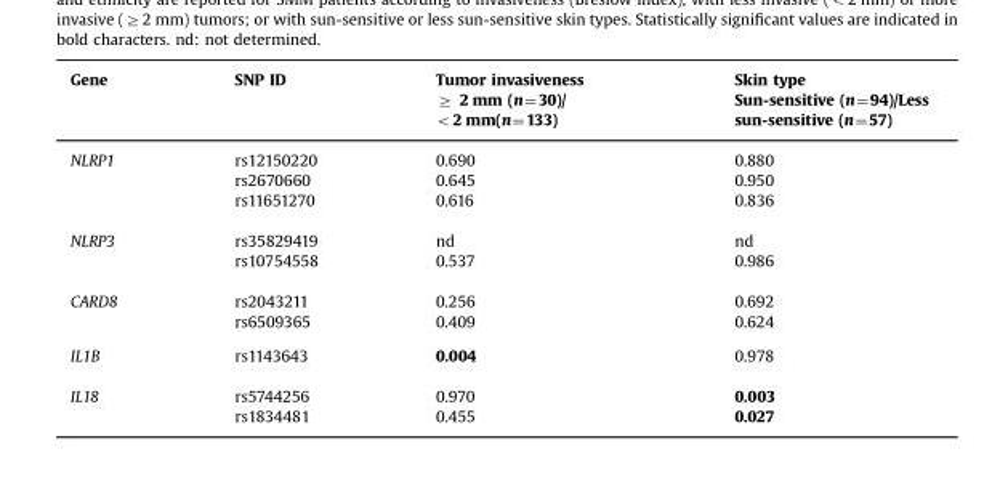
<table><thead><tr><td rowspan="2">Gene</td><td rowspan="2">SNP ID</td><td rowspan="2">Tumor invasiveness ≥ 2 mm (n=30)/ &lt;2 mm(n=133)</td><td rowspan="2">Skin type Sun-sensitive (n=94)/Less sun-sensitive (n=57)</td></tr><tr></tr></thead><tbody><tr><td rowspan="3">NLRP1</td><td>rs12150220</td><td>0.690</td><td>0.880</td></tr><tr><td>rs2670660</td><td>0.645</td><td>0.950</td></tr><tr><td>rs11651270</td><td>0.616</td><td>0.836</td></tr><tr><td rowspan="2">NLRP3</td><td>rs35829419</td><td>nd</td><td>nd</td></tr><tr><td>rs10754558</td><td>0.537</td><td>0.986</td></tr><tr><td rowspan="2">CARD8</td><td>rs2043211</td><td>0.256</td><td>0.692</td></tr><tr><td>rs6509365</td><td>0.409</td><td>0.624</td></tr><tr><td>IL1B</td><td>rs1143643</td><td>0.004</td><td>0.978</td></tr><tr><td rowspan="2">IL18</td><td>rs5744256</td><td>0.970</td><td>0.003</td></tr><tr><td>rs1834481</td><td>0.455</td><td>0.027</td></tr></tbody></table>